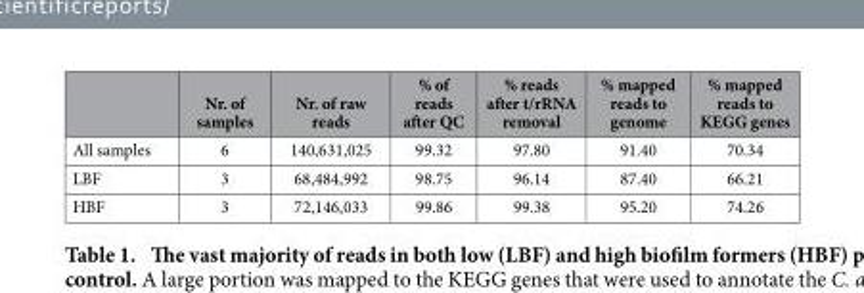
<table><thead><tr><td></td><td>Nr. of samples</td><td>Nr. of raw reads</td><td>% of reads after QC</td><td>% reads after t/rRNA removal</td><td>% mapped reads to genome</td><td>% mapped reads to KEGG genes</td></tr></thead><tbody><tr><td>All samples</td><td>6</td><td>140,631,025</td><td>99.32</td><td>97.80</td><td>91.40</td><td>70.34</td></tr><tr><td>LBF</td><td>3</td><td>68,484,992</td><td>98.75</td><td>96.14</td><td>87.40</td><td>66.21</td></tr><tr><td>HBF</td><td>3</td><td>72,146,033</td><td>99.86</td><td>99.38</td><td>95.20</td><td>74.26</td></tr></tbody></table>